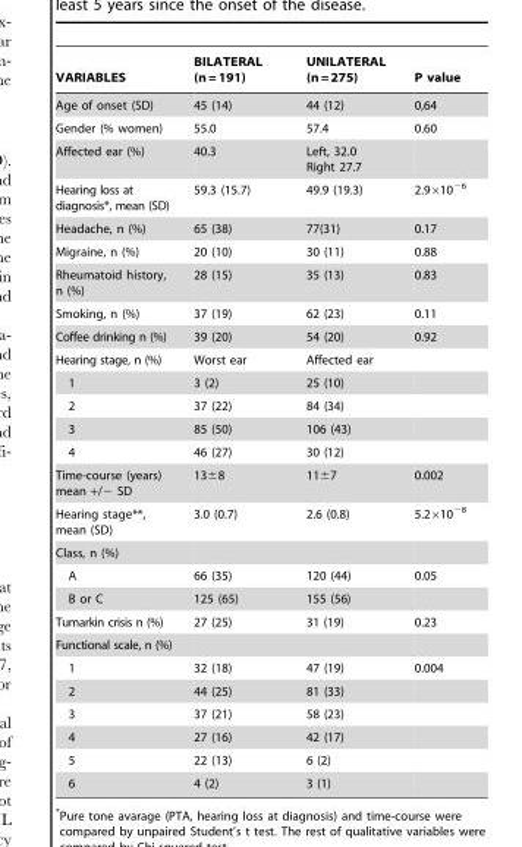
<table><thead><tr><td>VARIABLES</td><td>BILATERAL (n = 191)</td><td>UNILATERAL (n = 275)</td><td>P value</td></tr></thead><tbody><tr><td>Age of onset (SD)</td><td>45 (14)</td><td>44 (12)</td><td>0,64</td></tr><tr><td>Gender (% women)</td><td>55.0</td><td>57.4</td><td>0.60</td></tr><tr><td>Affected ear (%)</td><td>40.3</td><td>Left, 32.0 Right 27.7</td><td></td></tr><tr><td>Hearing loss at diagnosis*, mean (SD)</td><td>59.3 (15.7)</td><td>49.9 (19.3)</td><td>2.9×10<sup>−6</sup></td></tr><tr><td>Headache, n (%)</td><td>65 (38)</td><td>77(31)</td><td>0.17</td></tr><tr><td>Migraine, n (%)</td><td>20 (10)</td><td>30 (11)</td><td>0.88</td></tr><tr><td>Rheumatoid history, n (%)</td><td>28 (15)</td><td>35 (13)</td><td>0.83</td></tr><tr><td>Smoking, n (%)</td><td>37 (19)</td><td>62 (23)</td><td>0.11</td></tr><tr><td>Coffee drinking n (%)</td><td>39 (20)</td><td>54 (20)</td><td>0.92</td></tr><tr><td>Hearing stage, n (%)</td><td>Worst ear</td><td>Affected ear</td><td></td></tr><tr><td>1</td><td>3 (2)</td><td>25 (10)</td><td></td></tr><tr><td>2</td><td>37 (22)</td><td>84 (34)</td><td></td></tr><tr><td>3</td><td>85 (50)</td><td>106 (43)</td><td></td></tr><tr><td>4</td><td>46 (27)</td><td>30 (12)</td><td></td></tr><tr><td>Time-course (years) mean +/− SD</td><td>13±8</td><td>11±7</td><td>0.002</td></tr><tr><td>Hearing stage**, mean (SD)</td><td>3.0 (0.7)</td><td>2.6 (0.8)</td><td>5.2×10<sup>−8</sup></td></tr><tr><td colspan="4">Class, n (%)</td></tr><tr><td>A</td><td>66 (35)</td><td>120 (44)</td><td>0.05</td></tr><tr><td>B or C</td><td>125 (65)</td><td>155 (56)</td><td></td></tr><tr><td>Tumarkin crisis n (%)</td><td>27 (25)</td><td>31 (19)</td><td>0.23</td></tr><tr><td colspan="4">Functional scale, n (%)</td></tr><tr><td>1</td><td>32 (18)</td><td>47 (19)</td><td>0.004</td></tr><tr><td>2</td><td>44 (25)</td><td>81 (33)</td><td></td></tr><tr><td>3</td><td>37 (21)</td><td>58 (23)</td><td></td></tr><tr><td>4</td><td>27 (16)</td><td>42 (17)</td><td></td></tr><tr><td>5</td><td>22 (13)</td><td>6 (2)</td><td></td></tr><tr><td>6</td><td>4 (2)</td><td>3 (1)</td><td></td></tr></tbody></table>